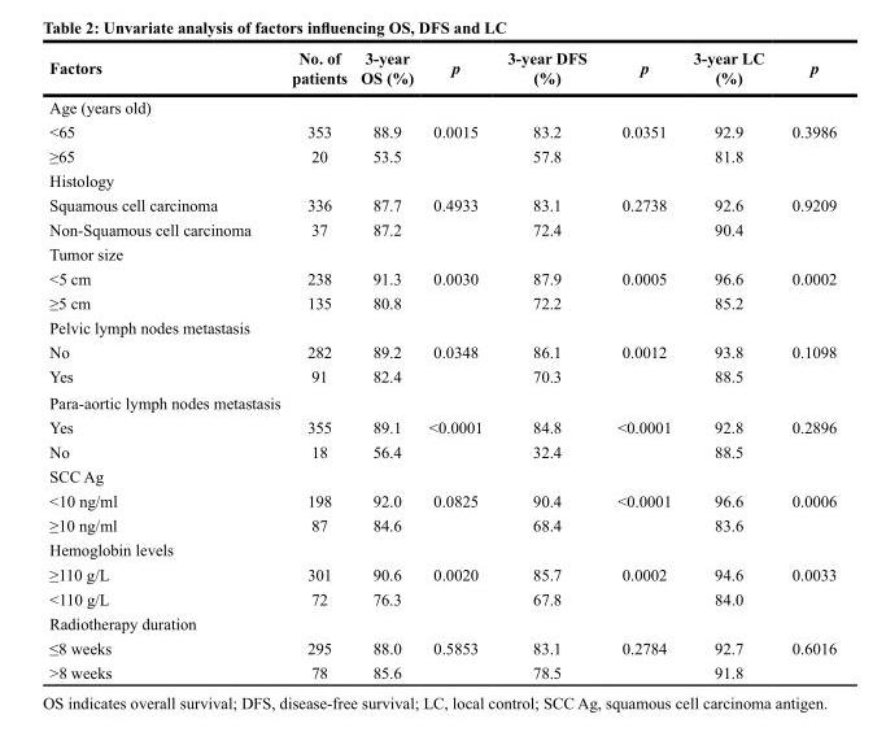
<table><thead><tr><td>Factors</td><td>No. of patients</td><td>3-year OS (%)</td><td>p</td><td>3-year DFS (%)</td><td>p</td><td>3-year LC (%)</td><td>p</td></tr></thead><tbody><tr><td colspan="8">Age (years old)</td></tr><tr><td>&lt;65</td><td>353</td><td>88.9</td><td>0.0015</td><td>83.2</td><td>0.0351</td><td>92.9</td><td>0.3986</td></tr><tr><td>≥65</td><td>20</td><td>53.5</td><td></td><td>57.8</td><td></td><td>81.8</td><td></td></tr><tr><td colspan="8">Histology</td></tr><tr><td>Squamous cell carcinoma</td><td>336</td><td>87.7</td><td>0.4933</td><td>83.1</td><td>0.2738</td><td>92.6</td><td>0.9209</td></tr><tr><td>Non-Squamous cell carcinoma</td><td>37</td><td>87.2</td><td></td><td>72.4</td><td></td><td>90.4</td><td></td></tr><tr><td colspan="8">Tumor size</td></tr><tr><td>&lt;5 cm</td><td>238</td><td>91.3</td><td>0.0030</td><td>87.9</td><td>0.0005</td><td>96.6</td><td>0.0002</td></tr><tr><td>≥5 cm</td><td>135</td><td>80.8</td><td></td><td>72.2</td><td></td><td>85.2</td><td></td></tr><tr><td colspan="8">Pelvic lymph nodes metastasis</td></tr><tr><td>No</td><td>282</td><td>89.2</td><td>0.0348</td><td>86.1</td><td>0.0012</td><td>93.8</td><td>0.1098</td></tr><tr><td>Yes</td><td>91</td><td>82.4</td><td></td><td>70.3</td><td></td><td>88.5</td><td></td></tr><tr><td colspan="8">Para-aortic lymph nodes metastasis</td></tr><tr><td>Yes</td><td>355</td><td>89.1</td><td>&lt;0.0001</td><td>84.8</td><td>&lt;0.0001</td><td>92.8</td><td>0.2896</td></tr><tr><td>No</td><td>18</td><td>56.4</td><td></td><td>32.4</td><td></td><td>88.5</td><td></td></tr><tr><td colspan="8">SCC Ag</td></tr><tr><td>&lt;10 ng/ml</td><td>198</td><td>92.0</td><td>0.0825</td><td>90.4</td><td>&lt;0.0001</td><td>96.6</td><td>0.0006</td></tr><tr><td>≥10 ng/ml</td><td>87</td><td>84.6</td><td></td><td>68.4</td><td></td><td>83.6</td><td></td></tr><tr><td colspan="8">Hemoglobin levels</td></tr><tr><td>≥110 g/L</td><td>301</td><td>90.6</td><td>0.0020</td><td>85.7</td><td>0.0002</td><td>94.6</td><td>0.0033</td></tr><tr><td>&lt;110 g/L</td><td>72</td><td>76.3</td><td></td><td>67.8</td><td></td><td>84.0</td><td></td></tr><tr><td colspan="8">Radiotherapy duration</td></tr><tr><td>≤8 weeks</td><td>295</td><td>88.0</td><td>0.5853</td><td>83.1</td><td>0.2784</td><td>92.7</td><td>0.6016</td></tr><tr><td>&gt;8 weeks</td><td>78</td><td>85.6</td><td></td><td>78.5</td><td></td><td>91.8</td><td></td></tr></tbody></table>